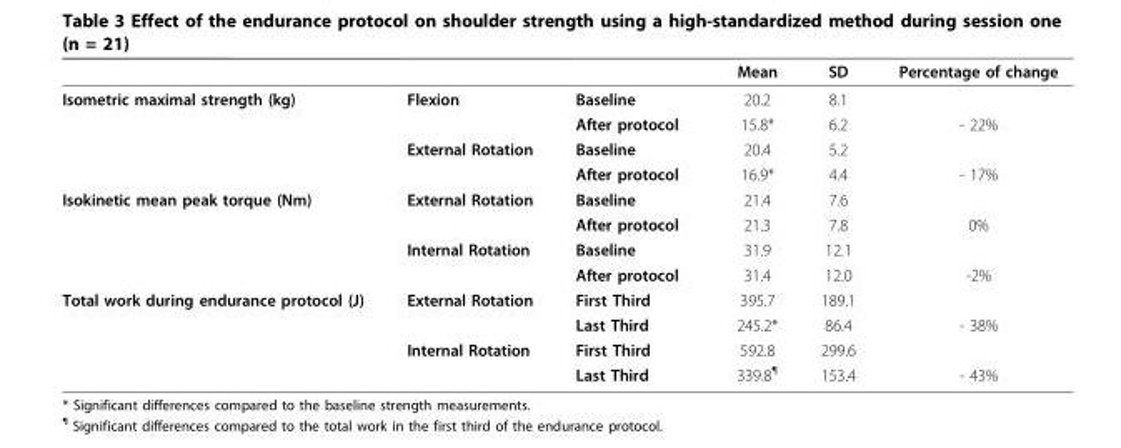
<table><thead><tr><td></td><td></td><td></td><td>Mean</td><td>SD</td><td>Percentage of change</td></tr></thead><tbody><tr><td rowspan="4">Isometric maximal strength (kg)</td><td>Flexion</td><td>Baseline</td><td>20.2</td><td>8.1</td><td></td></tr><tr><td></td><td>After protocol</td><td>15.8*</td><td>6.2</td><td>- 22%</td></tr><tr><td>External Rotation</td><td>Baseline</td><td>20.4</td><td>5.2</td><td></td></tr><tr><td></td><td>After protocol</td><td>16.9*</td><td>4.4</td><td>- 17%</td></tr><tr><td rowspan="4">Isokinetic mean peak torque (Nm)</td><td>External Rotation</td><td>Baseline</td><td>21.4</td><td>7.6</td><td></td></tr><tr><td></td><td>After protocol</td><td>21.3</td><td>7.8</td><td>0%</td></tr><tr><td>Internal Rotation</td><td>Baseline</td><td>31.9</td><td>12.1</td><td></td></tr><tr><td></td><td>After protocol</td><td>31.4</td><td>12.0</td><td>-2%</td></tr><tr><td rowspan="4">Total work during endurance protocol (J)</td><td>External Rotation</td><td>First Third</td><td>395.7</td><td>189.1</td><td></td></tr><tr><td></td><td>Last Third</td><td>245.2*</td><td>86.4</td><td>- 38%</td></tr><tr><td>Internal Rotation</td><td>First Third</td><td>592.8</td><td>299.6</td><td></td></tr><tr><td></td><td>Last Third</td><td>339.8<sup>¶</sup></td><td>153.4</td><td>- 43%</td></tr></tbody></table>